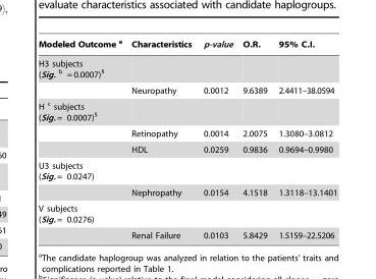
<table><thead><tr><td>Modeled Outcome a</td><td>Characteristics</td><td>p-value</td><td>O.R.</td><td>95% C.I.</td></tr></thead><tbody><tr><td colspan="5">H3 subjects (Sig. b = 0.0007)<sup>§</sup></td></tr><tr><td></td><td>Neuropathy</td><td>0.0012</td><td>9.6389</td><td>2.4411–38.0594</td></tr><tr><td colspan="5">H c subjects (Sig. = 0.0007)<sup>§</sup></td></tr><tr><td></td><td>Retinopathy</td><td>0.0014</td><td>2.0075</td><td>1.3080–3.0812</td></tr><tr><td></td><td>HDL</td><td>0.0259</td><td>0.9836</td><td>0.9694–0.9980</td></tr><tr><td colspan="5">U3 subjects (Sig. = 0.0247)</td></tr><tr><td></td><td>Nephropathy</td><td>0.0154</td><td>4.1518</td><td>1.3118–13.1401</td></tr><tr><td colspan="5">V subjects (Sig. = 0.0276)</td></tr><tr><td></td><td>Renal Failure</td><td>0.0103</td><td>5.8429</td><td>1.5159–22.5206</td></tr></tbody></table>